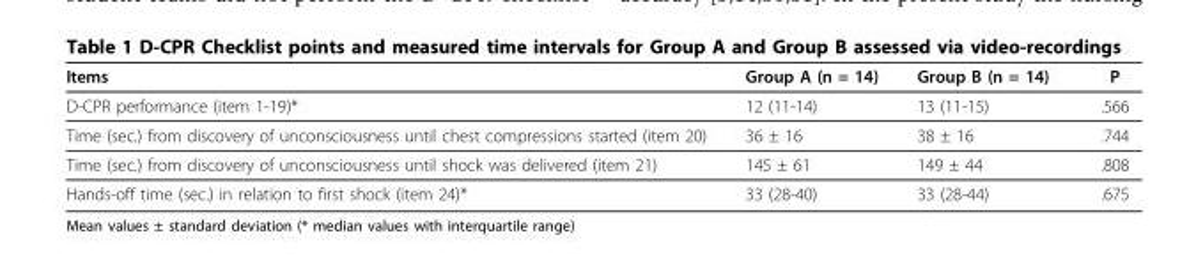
<table><thead><tr><td>Items</td><td>Group A (n = 14)</td><td>Group B (n = 14)</td><td>P</td></tr></thead><tbody><tr><td>D-CPR performance (item 1-19)*</td><td>12 (11-14)</td><td>13 (11-15)</td><td>.566</td></tr><tr><td>Time (sec.) from discovery of unconsciousness until chest compressions started (item 20)</td><td>36 ± 16</td><td>38 ± 16</td><td>.744</td></tr><tr><td>Time (sec.) from discovery of unconsciousness until shock was delivered (item 21)</td><td>145 ± 61</td><td>149 ± 44</td><td>.808</td></tr><tr><td>Hands-off time (sec.) in relation to first shock (item 24)*</td><td>33 (28-40)</td><td>33 (28-44)</td><td>.675</td></tr></tbody></table>